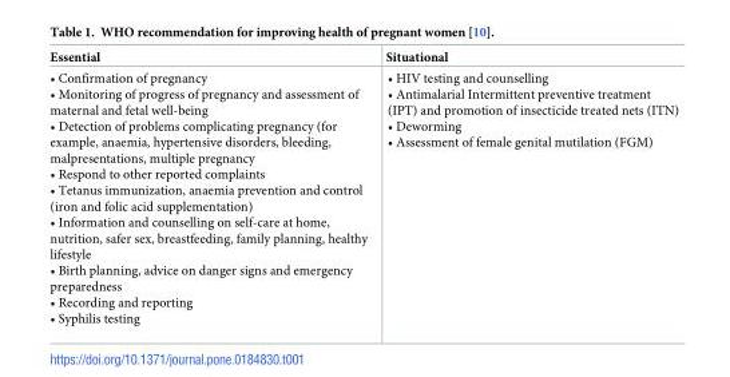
<table><thead><tr><td>Essential</td><td>Situational</td></tr></thead><tbody><tr><td>• Confirmation of pregnancy • Monitoring of progress of pregnancy and assessment of maternal and fetal well-being • Detection of problems complicating pregnancy (for example, anaemia, hypertensive disorders, bleeding, malpresentations, multiple pregnancy • Respond to other reported complaints • Tetanus immunization, anaemia prevention and control (iron and folic acid supplementation) • Information and counselling on self-care at home, nutrition, safer sex, breastfeeding, family planning, healthy lifestyle • Birth planning, advice on danger signs and emergency preparedness • Recording and reporting • Syphilis testing</td><td>• HIV testing and counselling • Antimalarial Intermittent preventive treatment (IPT) and promotion of insecticide treated nets (ITN) • Deworming • Assessment of female genital mutilation (FGM)</td></tr></tbody></table>